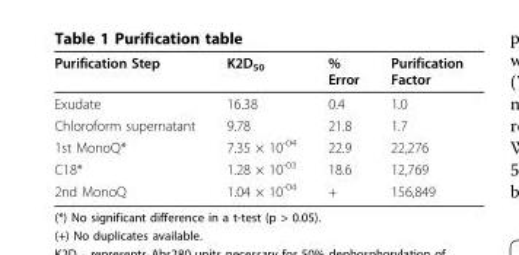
<table><thead><tr><td>Purification Step</td><td>K2D<sub>50</sub></td><td>% Error</td><td>Purification Factor</td></tr></thead><tbody><tr><td>Exudate</td><td>16.38</td><td>0.4</td><td>1.0</td></tr><tr><td>Chloroform supernatant</td><td>9.78</td><td>21.8</td><td>1.7</td></tr><tr><td>1st MonoQ*</td><td>7.35 × 10<sup>-04</sup></td><td>22.9</td><td>22,276</td></tr><tr><td>C18*</td><td>1.28 × 10<sup>-03</sup></td><td>18.6</td><td>12,769</td></tr><tr><td>2nd MonoQ</td><td>1.04 × 10<sup>-04</sup></td><td>+</td><td>156,849</td></tr></tbody></table>